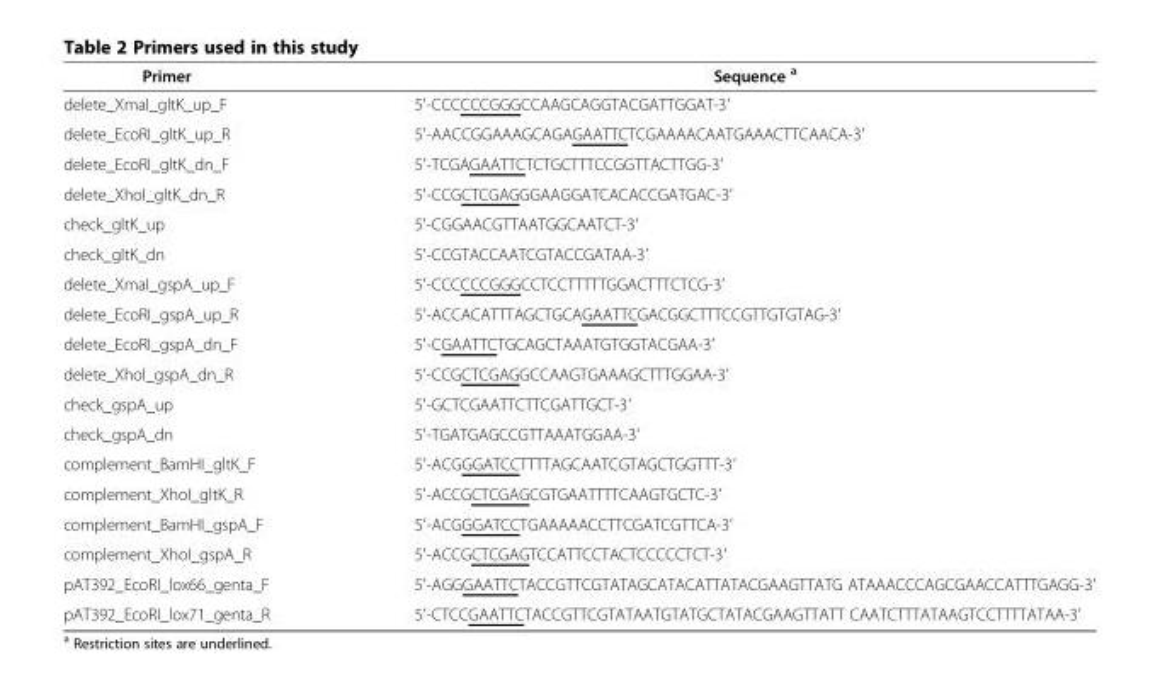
<table><thead><tr><td>Primer</td><td>Sequence <sup>a</sup></td></tr></thead><tbody><tr><td>delete_XmaI_gltK_up_F</td><td>5′-CCCCCCGGGCCAAGCAGGTACGATTGGAT-3′</td></tr><tr><td>delete_EcoRI_gltK_up_R</td><td>5′-AACCGGAAAGCAGAGAATTCTCGAAAACAATGAAACTTCAACA-3′</td></tr><tr><td>delete_EcoRI_gltK_dn_F</td><td>5′-TCGAGAATTCTCTGCTTTCCGGTTACTTGG-3′</td></tr><tr><td>delete_XhoI_gltK_dn_R</td><td>5′-CCGCTCGAGGGAAGGATCACACCGATGAC-3′</td></tr><tr><td>check_gltK_up</td><td>5′-CGGAACGTTAATGGCAATCT-3′</td></tr><tr><td>check_gltK_dn</td><td>5′-CCGTACCAATCGTACCGATAA-3′</td></tr><tr><td>delete_XmaI_gspA_up_F</td><td>5′-CCCCCCGGGCCTCCTTTTTGGACTTTCTCG-3′</td></tr><tr><td>delete_EcoRI_gspA_up_R</td><td>5′-ACCACATTTAGCTGCAGAATTCGACGGCTTTCCGTTGTGTAG-3′</td></tr><tr><td>delete_EcoRI_gspA_dn_F</td><td>5′-CGAATTCTGCAGCTAAATGTGGTACGAA-3′</td></tr><tr><td>delete_XhoI_gspA_dn_R</td><td>5′-CCGCTCGAGGCCAAGTGAAAGCTTTGGAA-3′</td></tr><tr><td>check_gspA_up</td><td>5′-GCTCGAATTCTTCGATTGCT-3′</td></tr><tr><td>check_gspA_dn</td><td>5′-TGATGAGCCGTTAAATGGAA-3′</td></tr><tr><td>complement_BamHI_gltK_F</td><td>5′-ACGGGATCCTTTTAGCAATCGTAGCTGGTTT-3′</td></tr><tr><td>complement_XhoI_gltK_R</td><td>5′-ACCGCTCGAGCGTGAATTTTCAAGTGCTC-3′</td></tr><tr><td>complement_BamHI_gspA_F</td><td>5′-ACGGGATCCTGAAAAACCTTCGATCGTTCA-3′</td></tr><tr><td>complement_XhoI_gspA_R</td><td>5′-ACCGCTCGAGTCCATTCCTACTCCCCCTCT-3′</td></tr><tr><td>pAT392_EcoRI_lox66_genta_F</td><td>5′-AGGGAATTCTACCGTTCGTATAGCATACATTATACGAAGTTATG ATAAACCCAGCGAACCATTTGAGG-3′</td></tr><tr><td>pAT392_EcoRI_lox71_genta_R</td><td>5′-CTCCGAATTCTACCGTTCGTATAATGTATGCTATACGAAGTTATT CAATCTTTATAAGTCCTTTTATAA-3′</td></tr></tbody></table>